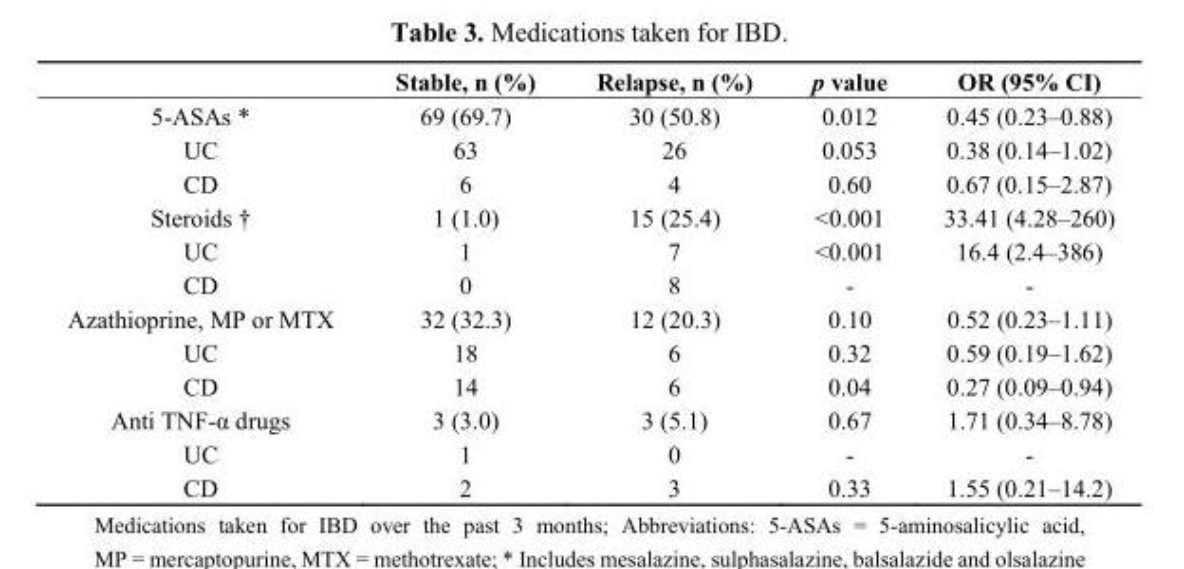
<table><thead><tr><td></td><td>Stable, n (%)</td><td>Relapse, n (%)</td><td>p value</td><td>OR (95% CI)</td></tr></thead><tbody><tr><td>5-ASAs *</td><td>69 (69.7)</td><td>30 (50.8)</td><td>0.012</td><td>0.45 (0.23–0.88)</td></tr><tr><td>UC</td><td>63</td><td>26</td><td>0.053</td><td>0.38 (0.14–1.02)</td></tr><tr><td>CD</td><td>6</td><td>4</td><td>0.60</td><td>0.67 (0.15–2.87)</td></tr><tr><td>Steroids †</td><td>1 (1.0)</td><td>15 (25.4)</td><td>&lt;0.001</td><td>33.41 (4.28–260)</td></tr><tr><td>UC</td><td>1</td><td>7</td><td>&lt;0.001</td><td>16.4 (2.4–386)</td></tr><tr><td>CD</td><td>0</td><td>8</td><td>-</td><td>-</td></tr><tr><td>Azathioprine, MP or MTX</td><td>32 (32.3)</td><td>12 (20.3)</td><td>0.10</td><td>0.52 (0.23–1.11)</td></tr><tr><td>UC</td><td>18</td><td>6</td><td>0.32</td><td>0.59 (0.19–1.62)</td></tr><tr><td>CD</td><td>14</td><td>6</td><td>0.04</td><td>0.27 (0.09–0.94)</td></tr><tr><td>Anti TNF-α drugs</td><td>3 (3.0)</td><td>3 (5.1)</td><td>0.67</td><td>1.71 (0.34–8.78)</td></tr><tr><td>UC</td><td>1</td><td>0</td><td>-</td><td>-</td></tr><tr><td>CD</td><td>2</td><td>3</td><td>0.33</td><td>1.55 (0.21–14.2)</td></tr></tbody></table>